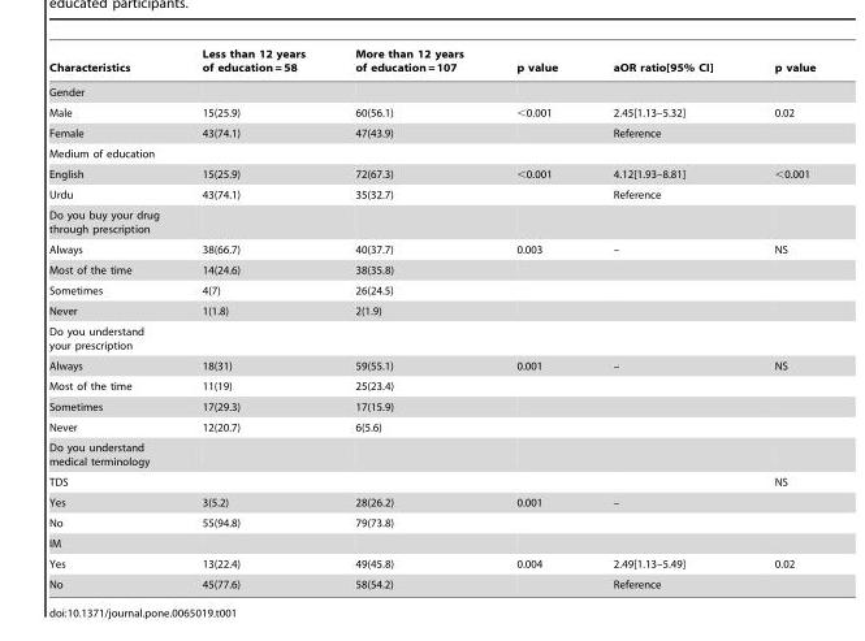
<table><thead><tr><td>Characteristics</td><td>Less than 12 years of education = 58</td><td>More than 12 years of education = 107</td><td>p value</td><td>aOR ratio[95% CI]</td><td>p value</td></tr></thead><tbody><tr><td colspan="6">Gender</td></tr><tr><td>Male</td><td>15(25.9)</td><td>60(56.1)</td><td>&lt;0.001</td><td>2.45[1.13–5.32]</td><td>0.02</td></tr><tr><td>Female</td><td>43(74.1)</td><td>47(43.9)</td><td></td><td>Reference</td><td></td></tr><tr><td colspan="6">Medium of education</td></tr><tr><td>English</td><td>15(25.9)</td><td>72(67.3)</td><td>&lt;0.001</td><td>4.12[1.93–8.81]</td><td>&lt;0.001</td></tr><tr><td>Urdu</td><td>43(74.1)</td><td>35(32.7)</td><td></td><td>Reference</td><td></td></tr><tr><td colspan="6">Do you buy your drug through prescription</td></tr><tr><td>Always</td><td>38(66.7)</td><td>40(37.7)</td><td>0.003</td><td>–</td><td>NS</td></tr><tr><td>Most of the time</td><td>14(24.6)</td><td>38(35.8)</td><td></td><td></td><td></td></tr><tr><td>Sometimes</td><td>4(7)</td><td>26(24.5)</td><td></td><td></td><td></td></tr><tr><td>Never</td><td>1(1.8)</td><td>2(1.9)</td><td></td><td></td><td></td></tr><tr><td colspan="6">Do you understand your prescription</td></tr><tr><td>Always</td><td>18(31)</td><td>59(55.1)</td><td>0.001</td><td>–</td><td>NS</td></tr><tr><td>Most of the time</td><td>11(19)</td><td>25(23.4)</td><td></td><td></td><td></td></tr><tr><td>Sometimes</td><td>17(29.3)</td><td>17(15.9)</td><td></td><td></td><td></td></tr><tr><td>Never</td><td>12(20.7)</td><td>6(5.6)</td><td></td><td></td><td></td></tr><tr><td colspan="6">Do you understand medical terminology</td></tr><tr><td>TDS</td><td></td><td></td><td></td><td></td><td>NS</td></tr><tr><td>Yes</td><td>3(5.2)</td><td>28(26.2)</td><td>0.001</td><td>–</td><td></td></tr><tr><td>No</td><td>55(94.8)</td><td>79(73.8)</td><td></td><td></td><td></td></tr><tr><td colspan="6">IM</td></tr><tr><td>Yes</td><td>13(22.4)</td><td>49(45.8)</td><td>0.004</td><td>2.49[1.13–5.49]</td><td>0.02</td></tr><tr><td>No</td><td>45(77.6)</td><td>58(54.2)</td><td></td><td>Reference</td><td></td></tr></tbody></table>